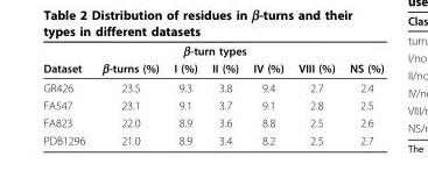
<table><thead><tr><td colspan="7">β-turn types</td></tr><tr><td>Dataset</td><td>β-turns (%)</td><td>I (%)</td><td>II (%)</td><td>IV (%)</td><td>VIII (%)</td><td>NS (%)</td></tr></thead><tbody><tr><td>GR426</td><td>23.5</td><td>9.3</td><td>3.8</td><td>9.4</td><td>2.7</td><td>2.4</td></tr><tr><td>FA547</td><td>23.1</td><td>9.1</td><td>3.7</td><td>9.1</td><td>2.8</td><td>2.5</td></tr><tr><td>FA823</td><td>22.0</td><td>8.9</td><td>3.6</td><td>8.8</td><td>2.5</td><td>2.6</td></tr><tr><td>PDB1296</td><td>21.0</td><td>8.9</td><td>3.4</td><td>8.2</td><td>2.5</td><td>2.7</td></tr></tbody></table>